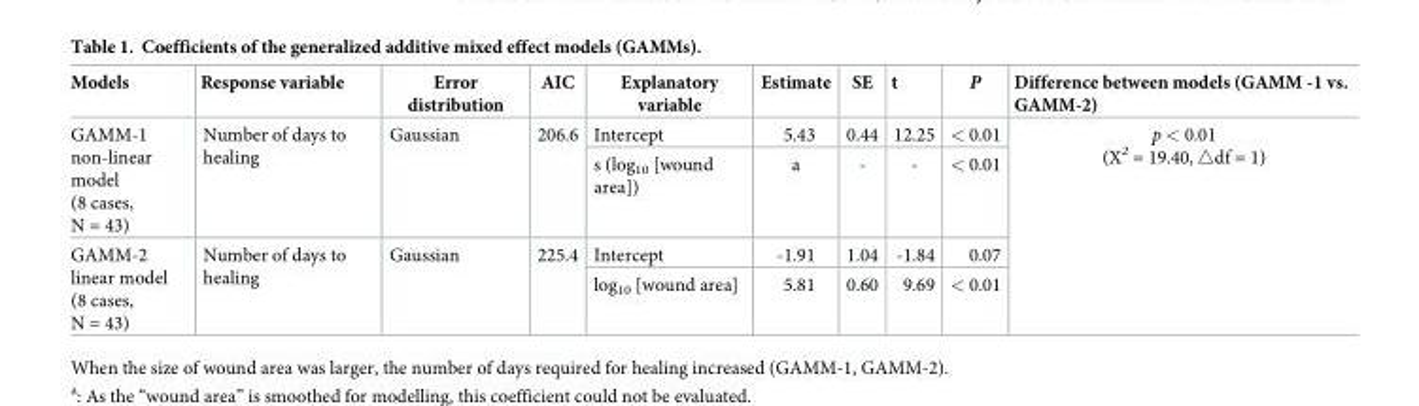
<table><thead><tr><td>Models</td><td>Response variable</td><td>Error distribution</td><td>AIC</td><td>Explanatory variable</td><td>Estimate</td><td>SE</td><td>t</td><td>P</td><td>Difference between models (GAMM -1 vs. GAMM-2)</td></tr></thead><tbody><tr><td rowspan="2">GAMM-1 non-linear model (8 cases, N = 43)</td><td rowspan="2">Number of days to healing</td><td rowspan="2">Gaussian</td><td rowspan="2">206.6</td><td>Intercept</td><td>5.43</td><td>0.44</td><td>12.25</td><td>&lt; 0.01</td><td rowspan="4">p &lt; 0.01 (X<sup>2</sup> = 19.40, △df = 1)</td></tr><tr><td>s (log<sub>10</sub> [wound area])</td><td>a</td><td>-</td><td>-</td><td>&lt; 0.01</td></tr><tr><td rowspan="2">GAMM-2 linear model (8 cases, N = 43)</td><td rowspan="2">Number of days to healing</td><td rowspan="2">Gaussian</td><td rowspan="2">225.4</td><td>Intercept</td><td>-1.91</td><td>1.04</td><td>-1.84</td><td>0.07</td></tr><tr><td>log<sub>10</sub> [wound area]</td><td>5.81</td><td>0.60</td><td>9.69</td><td>&lt; 0.01</td></tr></tbody></table>